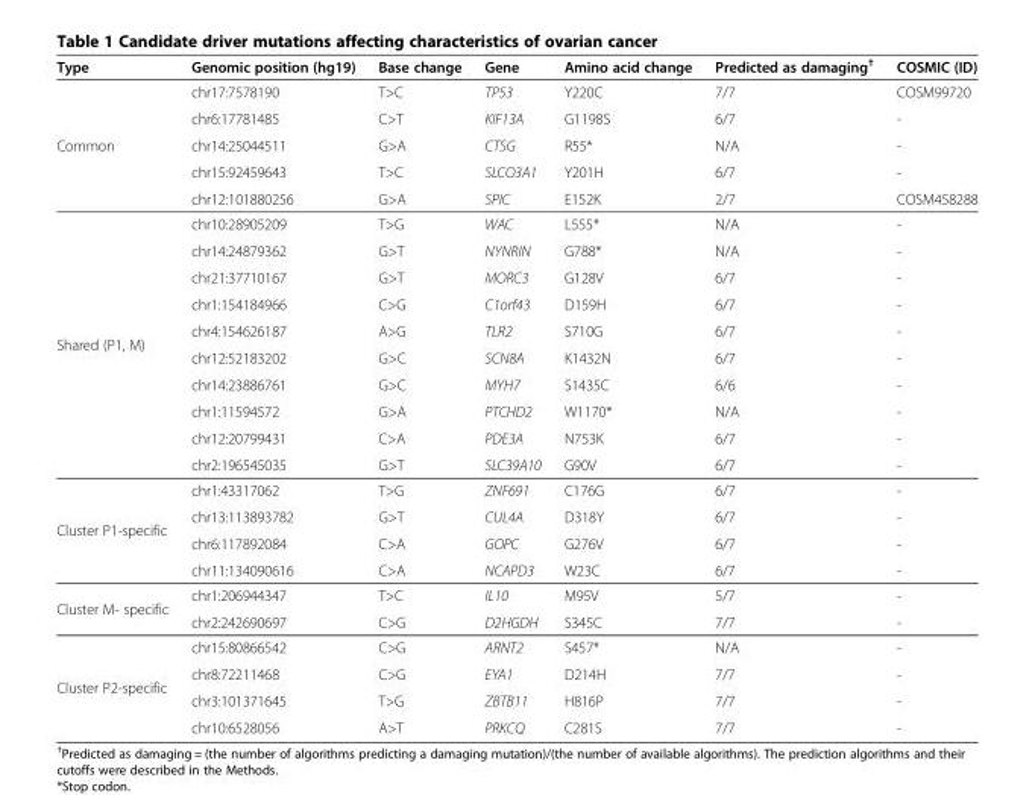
<table><thead><tr><td>Type</td><td>Genomic position (hg19)</td><td>Base change</td><td>Gene</td><td>Amino acid change</td><td>Predicted as damaging<sup>†</sup></td><td>COSMIC (ID)</td></tr></thead><tbody><tr><td rowspan="5">Common</td><td>chr17:7578190</td><td>T&gt;C</td><td>TP53</td><td>Y220C</td><td>7/7</td><td>COSM99720</td></tr><tr><td>chr6:17781485</td><td>C&gt;T</td><td>KIF13A</td><td>G1198S</td><td>6/7</td><td>-</td></tr><tr><td>chr14:25044511</td><td>G&gt;A</td><td>CTSG</td><td>R55*</td><td>N/A</td><td>-</td></tr><tr><td>chr15:92459643</td><td>T&gt;C</td><td>SLCO3A1</td><td>Y201H</td><td>6/7</td><td>-</td></tr><tr><td>chr12:101880256</td><td>G&gt;A</td><td>SPIC</td><td>E152K</td><td>2/7</td><td>COSM458288</td></tr><tr><td rowspan="10">Shared (P1, M)</td><td>chr10:28905209</td><td>T&gt;G</td><td>WAC</td><td>L555*</td><td>N/A</td><td>-</td></tr><tr><td>chr14:24879362</td><td>G&gt;T</td><td>NYNRIN</td><td>G788*</td><td>N/A</td><td>-</td></tr><tr><td>chr21:37710167</td><td>G&gt;T</td><td>MORC3</td><td>G128V</td><td>6/7</td><td>-</td></tr><tr><td>chr1:154184966</td><td>C&gt;G</td><td>C1orf43</td><td>D159H</td><td>6/7</td><td>-</td></tr><tr><td>chr4:154626187</td><td>A&gt;G</td><td>TLR2</td><td>S710G</td><td>6/7</td><td>-</td></tr><tr><td>chr12:52183202</td><td>G&gt;C</td><td>SCN8A</td><td>K1432N</td><td>6/7</td><td>-</td></tr><tr><td>chr14:23886761</td><td>G&gt;C</td><td>MYH7</td><td>S1435C</td><td>6/6</td><td>-</td></tr><tr><td>chr1:11594572</td><td>G&gt;A</td><td>PTCHD2</td><td>W1170*</td><td>N/A</td><td>-</td></tr><tr><td>chr12:20799431</td><td>C&gt;A</td><td>PDE3A</td><td>N753K</td><td>6/7</td><td>-</td></tr><tr><td>chr2:196545035</td><td>G&gt;T</td><td>SLC39A10</td><td>G90V</td><td>6/7</td><td>-</td></tr><tr><td rowspan="4">Cluster P1-specific</td><td>chr1:43317062</td><td>T&gt;G</td><td>ZNF691</td><td>C176G</td><td>6/7</td><td>-</td></tr><tr><td>chr13:113893782</td><td>G&gt;T</td><td>CUL4A</td><td>D318Y</td><td>6/7</td><td>-</td></tr><tr><td>chr6:117892084</td><td>C&gt;A</td><td>GOPC</td><td>G276V</td><td>6/7</td><td>-</td></tr><tr><td>chr11:134090616</td><td>C&gt;A</td><td>NCAPD3</td><td>W23C</td><td>6/7</td><td>-</td></tr><tr><td rowspan="2">Cluster M- specific</td><td>chr1:206944347</td><td>T&gt;C</td><td>IL10</td><td>M95V</td><td>5/7</td><td>-</td></tr><tr><td>chr2:242690697</td><td>C&gt;G</td><td>D2HGDH</td><td>S345C</td><td>7/7</td><td>-</td></tr><tr><td rowspan="4">Cluster P2-specific</td><td>chr15:80866542</td><td>C&gt;G</td><td>ARNT2</td><td>S457*</td><td>N/A</td><td>-</td></tr><tr><td>chr8:72211468</td><td>C&gt;G</td><td>EYA1</td><td>D214H</td><td>7/7</td><td>-</td></tr><tr><td>chr3:101371645</td><td>T&gt;G</td><td>ZBTB11</td><td>H816P</td><td>7/7</td><td>-</td></tr><tr><td>chr10:6528056</td><td>A&gt;T</td><td>PRKCQ</td><td>C281S</td><td>7/7</td><td>-</td></tr></tbody></table>